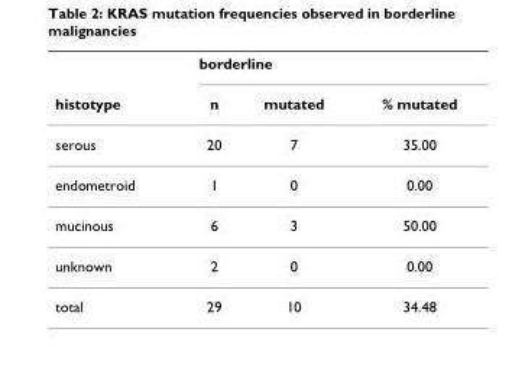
<table><thead><tr><td rowspan="2">histotype</td><td colspan="3">borderline</td></tr><tr><td>n</td><td>mutated</td><td>% mutated</td></tr></thead><tbody><tr><td>serous</td><td>20</td><td>7</td><td>35.00</td></tr><tr><td>endometroid</td><td>1</td><td>0</td><td>0.00</td></tr><tr><td>mucinous</td><td>6</td><td>3</td><td>50.00</td></tr><tr><td>unknown</td><td>2</td><td>0</td><td>0.00</td></tr><tr><td>total</td><td>29</td><td>10</td><td>34.48</td></tr></tbody></table>